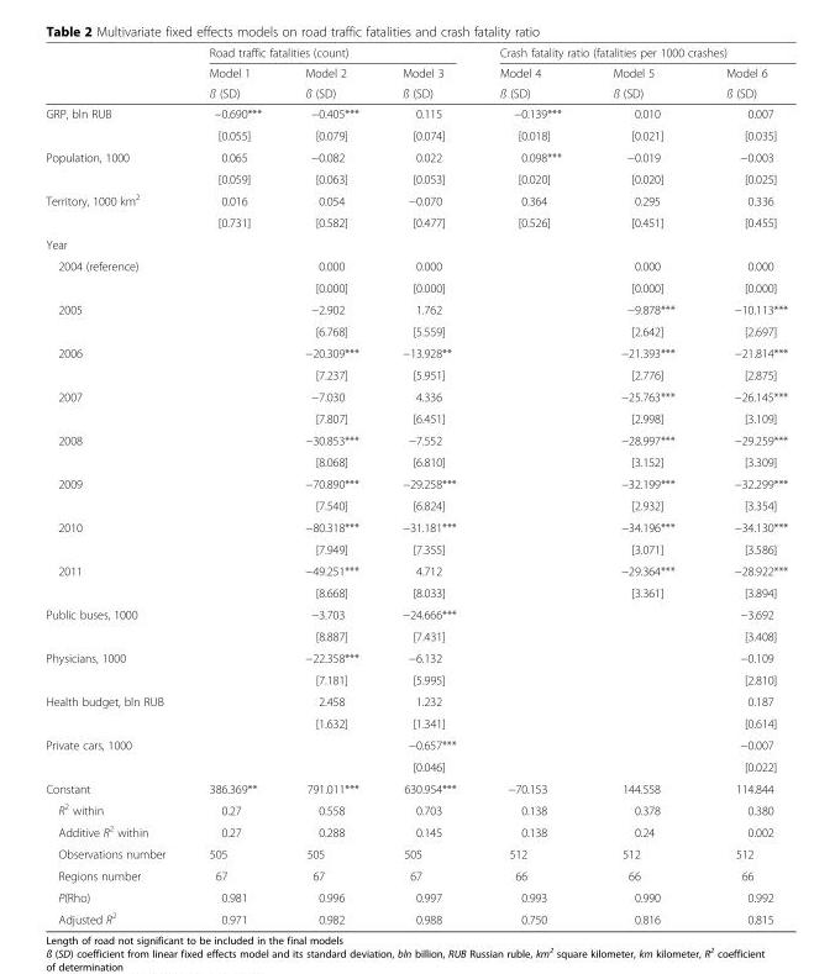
<table><thead><tr><td rowspan="3"></td><td colspan="3">Road traffic fatalities (count)</td><td colspan="3">Crash fatality ratio (fatalities per 1000 crashes)</td></tr><tr><td rowspan="2">Model 1 ß (SD)</td><td rowspan="2">Model 2 ß (SD)</td><td rowspan="2">Model 3 ß (SD)</td><td rowspan="2">Model 4 ß (SD)</td><td rowspan="2">Model 5 ß (SD)</td><td rowspan="2">Model 6 ß (SD)</td></tr><tr></tr></thead><tbody><tr><td rowspan="2">GRP, bln RUB</td><td>−0.690***</td><td>−0.405***</td><td>0.115</td><td>−0.139***</td><td>0.010</td><td>0.007</td></tr><tr><td>[0.055]</td><td>[0.079]</td><td>[0.074]</td><td>[0.018]</td><td>[0.021]</td><td>[0.035]</td></tr><tr><td rowspan="2">Population, 1000</td><td>0.065</td><td>−0.082</td><td>0.022</td><td>0.098***</td><td>−0.019</td><td>−0.003</td></tr><tr><td>[0.059]</td><td>[0.063]</td><td>[0.053]</td><td>[0.020]</td><td>[0.020]</td><td>[0.025]</td></tr><tr><td rowspan="2">Territory, 1000 km<sup>2</sup></td><td>0.016</td><td>0.054</td><td>−0.070</td><td>0.364</td><td>0.295</td><td>0.336</td></tr><tr><td>[0.731]</td><td>[0.582]</td><td>[0.477]</td><td>[0.526]</td><td>[0.451]</td><td>[0.455]</td></tr><tr><td colspan="7">Year</td></tr><tr><td rowspan="2">2004 (reference)</td><td></td><td>0.000</td><td>0.000</td><td></td><td>0.000</td><td>0.000</td></tr><tr><td></td><td>[0.000]</td><td>[0.000]</td><td></td><td>[0.000]</td><td>[0.000]</td></tr><tr><td rowspan="2">2005</td><td></td><td>−2.902</td><td>1.762</td><td></td><td>−9.878***</td><td>−10.113***</td></tr><tr><td></td><td>[6.768]</td><td>[5.559]</td><td></td><td>[2.642]</td><td>[2.697]</td></tr><tr><td rowspan="2">2006</td><td></td><td>−20.309***</td><td>−13.928**</td><td></td><td>−21.393***</td><td>−21.814***</td></tr><tr><td></td><td>[7.237]</td><td>[5.951]</td><td></td><td>[2.776]</td><td>[2.875]</td></tr><tr><td rowspan="2">2007</td><td></td><td>−7.030</td><td>4.336</td><td></td><td>−25.763***</td><td>−26.145***</td></tr><tr><td></td><td>[7.807]</td><td>[6.451]</td><td></td><td>[2.998]</td><td>[3.109]</td></tr><tr><td rowspan="2">2008</td><td></td><td>−30.853***</td><td>−7.552</td><td></td><td>−28.997***</td><td>−29.259***</td></tr><tr><td></td><td>[8.068]</td><td>[6.810]</td><td></td><td>[3.152]</td><td>[3.309]</td></tr><tr><td rowspan="2">2009</td><td></td><td>−70.890***</td><td>−29.258***</td><td></td><td>−32.199***</td><td>−32.299***</td></tr><tr><td></td><td>[7.540]</td><td>[6.824]</td><td></td><td>[2.932]</td><td>[3.354]</td></tr><tr><td rowspan="2">2010</td><td></td><td>−80.318***</td><td>−31.181***</td><td></td><td>−34.196***</td><td>−34.130***</td></tr><tr><td></td><td>[7.949]</td><td>[7.355]</td><td></td><td>[3.071]</td><td>[3.586]</td></tr><tr><td rowspan="2">2011</td><td></td><td>−49.251***</td><td>4.712</td><td></td><td>−29.364***</td><td>−28.922***</td></tr><tr><td></td><td>[8.668]</td><td>[8.033]</td><td></td><td>[3.361]</td><td>[3.894]</td></tr><tr><td rowspan="2">Public buses, 1000</td><td></td><td>−3.703</td><td>−24.666***</td><td></td><td></td><td>−3.692</td></tr><tr><td></td><td>[8.887]</td><td>[7.431]</td><td></td><td></td><td>[3.408]</td></tr><tr><td rowspan="2">Physicians, 1000</td><td></td><td>−22.358***</td><td>−6.132</td><td></td><td></td><td>−0.109</td></tr><tr><td></td><td>[7.181]</td><td>[5.995]</td><td></td><td></td><td>[2.810]</td></tr><tr><td rowspan="2">Health budget, bln RUB</td><td></td><td>2.458</td><td>1.232</td><td></td><td></td><td>0.187</td></tr><tr><td></td><td>[1.632]</td><td>[1.341]</td><td></td><td></td><td>[0.614]</td></tr><tr><td rowspan="2">Private cars, 1000</td><td></td><td></td><td>−0.657***</td><td></td><td></td><td>−0.007</td></tr><tr><td></td><td></td><td>[0.046]</td><td></td><td></td><td>[0.022]</td></tr><tr><td>Constant</td><td>386.369**</td><td>791.011***</td><td>630.954***</td><td>−70.153</td><td>144.558</td><td>114.844</td></tr><tr><td>R<sup>2</sup> within</td><td>0.27</td><td>0.558</td><td>0.703</td><td>0.138</td><td>0.378</td><td>0.380</td></tr><tr><td>Additive R<sup>2</sup> within</td><td>0.27</td><td>0.288</td><td>0.145</td><td>0.138</td><td>0.24</td><td>0.002</td></tr><tr><td>Observations number</td><td>505</td><td>505</td><td>505</td><td>512</td><td>512</td><td>512</td></tr><tr><td>Regions number</td><td>67</td><td>67</td><td>67</td><td>66</td><td>66</td><td>66</td></tr><tr><td>Ρ(Rho)</td><td>0.981</td><td>0.996</td><td>0.997</td><td>0.993</td><td>0.990</td><td>0.992</td></tr><tr><td>Adjusted R<sup>2</sup></td><td>0.971</td><td>0.982</td><td>0.988</td><td>0.750</td><td>0.816</td><td>0.815</td></tr></tbody></table>